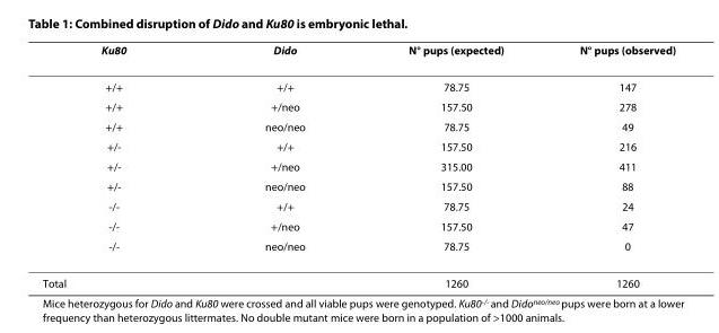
<table><thead><tr><td>Ku80</td><td>Dido</td><td>N° pups (expected)</td><td>N° pups (observed)</td></tr></thead><tbody><tr><td>+/+</td><td>+/+</td><td>78.75</td><td>147</td></tr><tr><td>+/+</td><td>+/neo</td><td>157.50</td><td>278</td></tr><tr><td>+/+</td><td>neo/neo</td><td>78.75</td><td>49</td></tr><tr><td>+/-</td><td>+/+</td><td>157.50</td><td>216</td></tr><tr><td>+/-</td><td>+/neo</td><td>315.00</td><td>411</td></tr><tr><td>+/-</td><td>neo/neo</td><td>157.50</td><td>88</td></tr><tr><td>-/-</td><td>+/+</td><td>78.75</td><td>24</td></tr><tr><td>-/-</td><td>+/neo</td><td>157.50</td><td>47</td></tr><tr><td>-/-</td><td>neo/neo</td><td>78.75</td><td>0</td></tr><tr><td colspan="2">Total</td><td>1260</td><td>1260</td></tr></tbody></table>